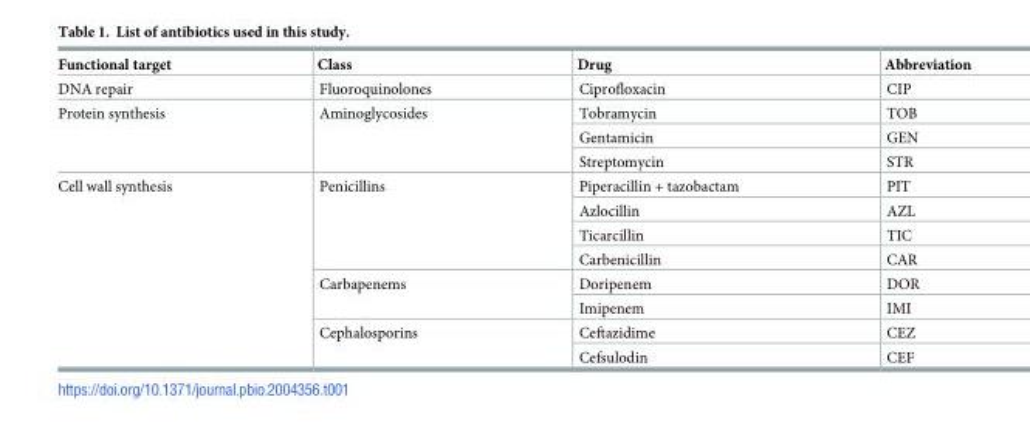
<table><thead><tr><td>Functional target</td><td>Class</td><td>Drug</td><td>Abbreviation</td></tr></thead><tbody><tr><td>DNA repair</td><td>Fluoroquinolones</td><td>Ciprofloxacin</td><td>CIP</td></tr><tr><td rowspan="3">Protein synthesis</td><td rowspan="3">Aminoglycosides</td><td>Tobramycin</td><td>TOB</td></tr><tr><td>Gentamicin</td><td>GEN</td></tr><tr><td>Streptomycin</td><td>STR</td></tr><tr><td rowspan="8">Cell wall synthesis</td><td rowspan="4">Penicillins</td><td>Piperacillin + tazobactam</td><td>PIT</td></tr><tr><td>Azlocillin</td><td>AZL</td></tr><tr><td>Ticarcillin</td><td>TIC</td></tr><tr><td>Carbenicillin</td><td>CAR</td></tr><tr><td rowspan="2">Carbapenems</td><td>Doripenem</td><td>DOR</td></tr><tr><td>Imipenem</td><td>IMI</td></tr><tr><td rowspan="2">Cephalosporins</td><td>Ceftazidime</td><td>CEZ</td></tr><tr><td>Cefsulodin</td><td>CEF</td></tr></tbody></table>